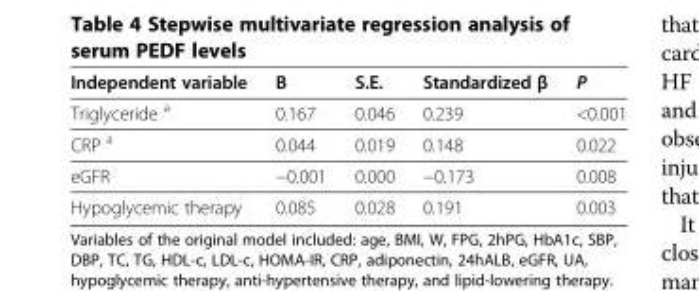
<table><thead><tr><td>Independent variable</td><td>Β</td><td>S.E.</td><td>Standardized β</td><td>P</td></tr></thead><tbody><tr><td>Triglyceride <sup>a</sup></td><td>0.167</td><td>0.046</td><td>0.239</td><td>&lt;0.001</td></tr><tr><td>CRP <sup>a</sup></td><td>0.044</td><td>0.019</td><td>0.148</td><td>0.022</td></tr><tr><td>eGFR</td><td>−0.001</td><td>0.000</td><td>−0.173</td><td>0.008</td></tr><tr><td>Hypoglycemic therapy</td><td>0.085</td><td>0.028</td><td>0.191</td><td>0.003</td></tr></tbody></table>